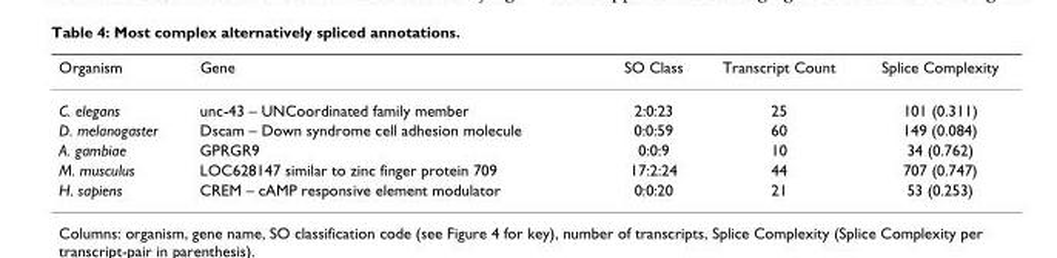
<table><thead><tr><td>Organism</td><td>Gene</td><td>SO Class</td><td>Transcript Count</td><td>Splice Complexity</td></tr></thead><tbody><tr><td>C. elegans</td><td>unc-43 – UNCoordinated family member</td><td>2:0:23</td><td>25</td><td>101 (0.311)</td></tr><tr><td>D. melanogaster</td><td>Dscam – Down syndrome cell adhesion molecule</td><td>0:0:59</td><td>60</td><td>149 (0.084)</td></tr><tr><td>A. gambiae</td><td>GPRGR9</td><td>0:0:9</td><td>10</td><td>34 (0.762)</td></tr><tr><td>M. musculus</td><td>LOC628147 similar to zinc finger protein 709</td><td>17:2:24</td><td>44</td><td>707 (0.747)</td></tr><tr><td>H. sapiens</td><td>CREM – cAMP responsive element modulator</td><td>0:0:20</td><td>21</td><td>53 (0.253)</td></tr></tbody></table>